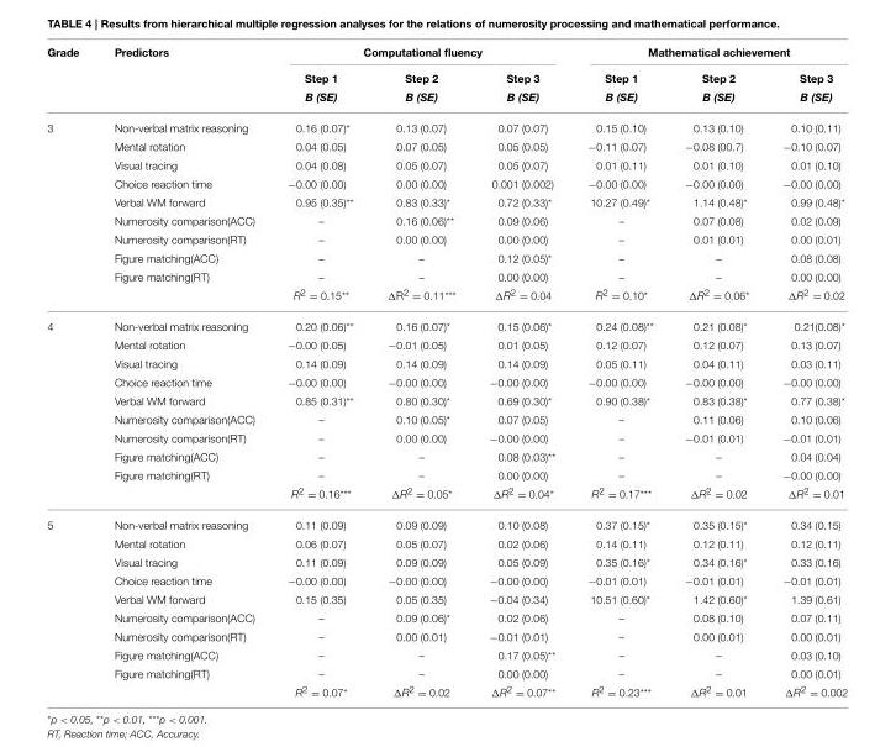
<table><thead><tr><td rowspan="3">Grade</td><td rowspan="3">Predictors</td><td colspan="3">Computational fluency</td><td colspan="3">Mathematical achievement</td></tr><tr><td rowspan="2">Step 1 B (SE)</td><td rowspan="2">Step 2 B (SE)</td><td rowspan="2">Step 3 B (SE)</td><td rowspan="2">Step 1 B (SE)</td><td rowspan="2">Step 2 B (SE)</td><td rowspan="2">Step 3 B (SE)</td></tr><tr></tr></thead><tbody><tr><td rowspan="10">3</td><td>Non-verbal matrix reasoning</td><td>0.16 (0.07)*</td><td>0.13 (0.07)</td><td>0.07 (0.07)</td><td>0.15 (0.10)</td><td>0.13 (0.10)</td><td>0.10 (0.11)</td></tr><tr><td>Mental rotation</td><td>0.04 (0.05)</td><td>0.07 (0.05)</td><td>0.05 (0.05)</td><td>−0.11 (0.07)</td><td>−0.08 (00.7)</td><td>−0.10 (0.07)</td></tr><tr><td>Visual tracing</td><td>0.04 (0.08)</td><td>0.05 (0.07)</td><td>0.05 (0.07)</td><td>0.01 (0.11)</td><td>0.01 (0.10)</td><td>0.01 (0.10)</td></tr><tr><td>Choice reaction time</td><td>−0.00 (0.00)</td><td>0.00 (0.00)</td><td>0.001 (0.002)</td><td>−0.00 (0.00)</td><td>−0.00 (0.00)</td><td>−0.00 (0.00)</td></tr><tr><td>Verbal WM forward</td><td>0.95 (0.35)**</td><td>0.83 (0.33)*</td><td>0.72 (0.33)*</td><td>10.27 (0.49)*</td><td>1.14 (0.48)*</td><td>0.99 (0.48)*</td></tr><tr><td>Numerosity comparison(ACC)</td><td>–</td><td>0.16 (0.06)**</td><td>0.09 (0.06)</td><td>–</td><td>0.07 (0.08)</td><td>0.02 (0.09)</td></tr><tr><td>Numerosity comparison(RT)</td><td>–</td><td>0.00 (0.00)</td><td>0.00 (0.00)</td><td>–</td><td>0.01 (0.01)</td><td>0.00 (0.01)</td></tr><tr><td>Figure matching(ACC)</td><td>–</td><td>–</td><td>0.12 (0.05)*</td><td>–</td><td>–</td><td>0.08 (0.08)</td></tr><tr><td>Figure matching(RT)</td><td>–</td><td>–</td><td>0.00 (0.00)</td><td>–</td><td>–</td><td>0.00 (0.00)</td></tr><tr><td></td><td>R<sup>2</sup> = 0.15**</td><td>ΔR<sup>2</sup> = 0.11***</td><td>ΔR<sup>2</sup> = 0.04</td><td>R<sup>2</sup> = 0.10*</td><td>ΔR<sup>2</sup> = 0.06*</td><td>ΔR<sup>2</sup> = 0.02</td></tr><tr><td rowspan="10">4</td><td>Non-verbal matrix reasoning</td><td>0.20 (0.06)**</td><td>0.16 (0.07)*</td><td>0.15 (0.06)*</td><td>0.24 (0.08)**</td><td>0.21 (0.08)*</td><td>0.21(0.08)*</td></tr><tr><td>Mental rotation</td><td>−0.00 (0.05)</td><td>−0.01 (0.05)</td><td>0.01 (0.05)</td><td>0.12 (0.07)</td><td>0.12 (0.07)</td><td>0.13 (0.07)</td></tr><tr><td>Visual tracing</td><td>0.14 (0.09)</td><td>0.14 (0.09)</td><td>0.14 (0.09)</td><td>0.05 (0.11)</td><td>0.04 (0.11)</td><td>0.03 (0.11)</td></tr><tr><td>Choice reaction time</td><td>−0.00 (0.00)</td><td>−0.00 (0.00)</td><td>−0.00 (0.00)</td><td>−0.00 (0.00)</td><td>−0.00 (0.00)</td><td>−0.00 (0.00)</td></tr><tr><td>Verbal WM forward</td><td>0.85 (0.31)**</td><td>0.80 (0.30)*</td><td>0.69 (0.30)*</td><td>0.90 (0.38)*</td><td>0.83 (0.38)*</td><td>0.77 (0.38)*</td></tr><tr><td>Numerosity comparison(ACC)</td><td>–</td><td>0.10 (0.05)*</td><td>0.07 (0.05)</td><td>–</td><td>0.11 (0.06)</td><td>0.10 (0.06)</td></tr><tr><td>Numerosity comparison(RT)</td><td>–</td><td>0.00 (0.00)</td><td>−0.00 (0.00)</td><td>–</td><td>−0.01 (0.01)</td><td>−0.01 (0.01)</td></tr><tr><td>Figure matching(ACC)</td><td>–</td><td>–</td><td>0.08 (0.03)**</td><td>–</td><td>–</td><td>0.04 (0.04)</td></tr><tr><td>Figure matching(RT)</td><td>–</td><td>–</td><td>0.00 (0.00)</td><td>–</td><td>–</td><td>−0.00 (0.00)</td></tr><tr><td></td><td>R<sup>2</sup> = 0.16***</td><td>ΔR<sup>2</sup> = 0.05*</td><td>ΔR<sup>2</sup> = 0.04*</td><td>R<sup>2</sup> = 0.17***</td><td>ΔR<sup>2</sup> = 0.02</td><td>ΔR<sup>2</sup> = 0.01</td></tr><tr><td rowspan="10">5</td><td>Non-verbal matrix reasoning</td><td>0.11 (0.09)</td><td>0.09 (0.09)</td><td>0.10 (0.08)</td><td>0.37 (0.15)*</td><td>0.35 (0.15)*</td><td>0.34 (0.15)</td></tr><tr><td>Mental rotation</td><td>0.06 (0.07)</td><td>0.05 (0.07)</td><td>0.02 (0.06)</td><td>0.14 (0.11)</td><td>0.12 (0.11)</td><td>0.12 (0.11)</td></tr><tr><td>Visual tracing</td><td>0.11 (0.09)</td><td>0.09 (0.09)</td><td>0.05 (0.09)</td><td>0.35 (0.16)*</td><td>0.34 (0.16)*</td><td>0.33 (0.16)</td></tr><tr><td>Choice reaction time</td><td>−0.00 (0.00)</td><td>−0.00 (0.00)</td><td>−0.00 (0.00)</td><td>−0.01 (0.01)</td><td>−0.01 (0.01)</td><td>−0.01 (0.01)</td></tr><tr><td>Verbal WM forward</td><td>0.15 (0.35)</td><td>0.05 (0.35)</td><td>−0.04 (0.34)</td><td>10.51 (0.60)*</td><td>1.42 (0.60)*</td><td>1.39 (0.61)</td></tr><tr><td>Numerosity comparison(ACC)</td><td>–</td><td>0.09 (0.06)*</td><td>0.02 (0.06)</td><td>–</td><td>0.08 (0.10)</td><td>0.07 (0.11)</td></tr><tr><td>Numerosity comparison(RT)</td><td>–</td><td>0.00 (0.01)</td><td>−0.01 (0.01)</td><td>–</td><td>0.00 (0.01)</td><td>0.00 (0.01)</td></tr><tr><td>Figure matching(ACC)</td><td>–</td><td>–</td><td>0.17 (0.05)**</td><td>–</td><td>–</td><td>0.03 (0.10)</td></tr><tr><td>Figure matching(RT)</td><td>–</td><td>–</td><td>0.00 (0.00)</td><td>–</td><td>–</td><td>0.00 (0.01)</td></tr><tr><td></td><td>R<sup>2</sup> = 0.07*</td><td>ΔR<sup>2</sup> = 0.02</td><td>ΔR<sup>2</sup> = 0.07**</td><td>R<sup>2</sup> = 0.23***</td><td>ΔR<sup>2</sup> = 0.01</td><td>ΔR<sup>2</sup> = 0.002</td></tr></tbody></table>